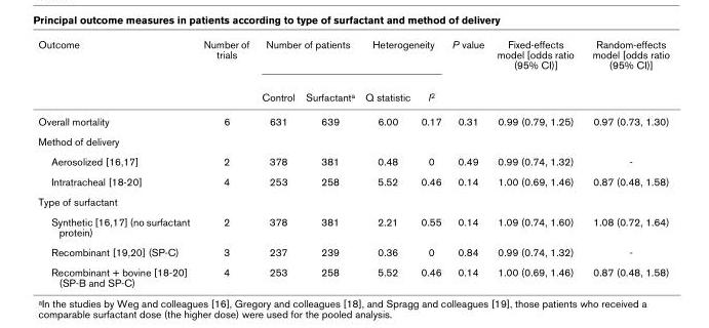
<table><thead><tr><td rowspan="2">Outcome</td><td rowspan="2">Number of trials</td><td colspan="2">Number of patients</td><td colspan="2">Heterogeneity</td><td rowspan="2">P value</td><td rowspan="2">Fixed-effects model [odds ratio (95% CI)]</td><td rowspan="2">Random-effects model [odds ratio (95% CI)]</td></tr><tr><td>Control</td><td>Surfactanta</td><td>Q statistic</td><td>I2</td></tr></thead><tbody><tr><td>Overall mortality</td><td>6</td><td>631</td><td>639</td><td>6.00</td><td>0.17</td><td>0.31</td><td>0.99 (0.79, 1.25)</td><td>0.97 (0.73, 1.30)</td></tr><tr><td colspan="9">Method of delivery</td></tr><tr><td>Aerosolized [16,17]</td><td>2</td><td>378</td><td>381</td><td>0.48</td><td>0</td><td>0.49</td><td>0.99 (0.74, 1.32)</td><td>-</td></tr><tr><td>Intratracheal [18-20]</td><td>4</td><td>253</td><td>258</td><td>5.52</td><td>0.46</td><td>0.14</td><td>1.00 (0.69, 1.46)</td><td>0.87 (0.48, 1.58)</td></tr><tr><td colspan="9">Type of surfactant</td></tr><tr><td>Synthetic [16,17] (no surfactant protein)</td><td>2</td><td>378</td><td>381</td><td>2.21</td><td>0.55</td><td>0.14</td><td>1.09 (0.74, 1.60)</td><td>1.08 (0.72, 1.64)</td></tr><tr><td>Recombinant [19,20] (SP-C)</td><td>3</td><td>237</td><td>239</td><td>0.36</td><td>0</td><td>0.84</td><td>0.99 (0.74, 1.32)</td><td>-</td></tr><tr><td>Recombinant + bovine [18-20] (SP-B and SP-C)</td><td>4</td><td>253</td><td>258</td><td>5.52</td><td>0.46</td><td>0.14</td><td>1.00 (0.69, 1.46)</td><td>0.87 (0.48, 1.58)</td></tr></tbody></table>